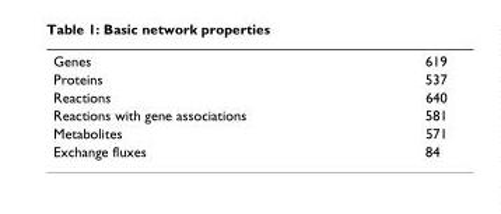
<table><tbody><tr><td>Genes</td><td>619</td></tr><tr><td>Proteins</td><td>537</td></tr><tr><td>Reactions</td><td>640</td></tr><tr><td>Reactions with gene associations</td><td>581</td></tr><tr><td>Metabolites</td><td>571</td></tr><tr><td>Exchange fluxes</td><td>84</td></tr></tbody></table>